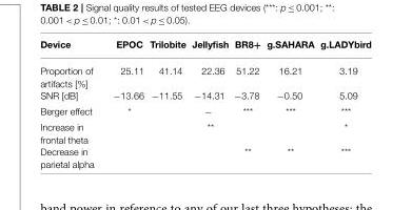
<table><thead><tr><td>Device</td><td>EPOC</td><td>Trilobite</td><td>Jellyfish</td><td>BR8+</td><td>g.SAHARA</td><td>g.LADYbird</td></tr></thead><tbody><tr><td>Proportion of artifacts [%]</td><td>25.11</td><td>41.14</td><td>22.36</td><td>51.22</td><td>16.21</td><td>3.19</td></tr><tr><td>SNR [dB]</td><td>−13.66</td><td>−11.55</td><td>−14.31</td><td>−3.78</td><td>−0.50</td><td>5.09</td></tr><tr><td>Berger effect</td><td>*</td><td></td><td>−</td><td>***</td><td>***</td><td>***</td></tr><tr><td>Increase in frontal theta</td><td></td><td></td><td>**</td><td></td><td></td><td>*</td></tr><tr><td>Decrease in parietal alpha</td><td></td><td></td><td></td><td>**</td><td>**</td><td>***</td></tr></tbody></table>